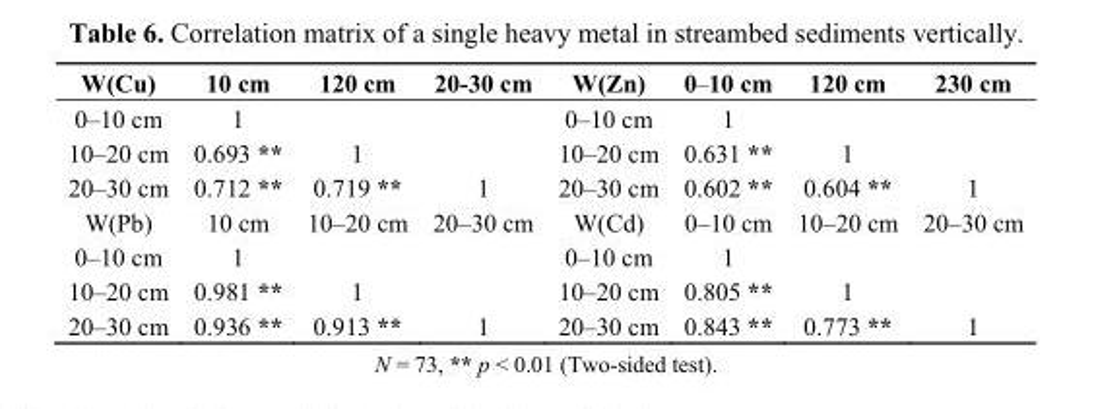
<table><thead><tr><td>W(Cu)</td><td>10 cm</td><td>120 cm</td><td>20-30 cm</td><td>W(Zn)</td><td>0–10 cm</td><td>120 cm</td><td>230 cm</td></tr></thead><tbody><tr><td>0–10 cm</td><td>1</td><td></td><td></td><td>0–10 cm</td><td>1</td><td></td><td></td></tr><tr><td>10–20 cm</td><td>0.693 **</td><td>1</td><td></td><td>10–20 cm</td><td>0.631 **</td><td>1</td><td></td></tr><tr><td>20–30 cm</td><td>0.712 **</td><td>0.719 **</td><td>1</td><td>20–30 cm</td><td>0.602 **</td><td>0.604 **</td><td>1</td></tr><tr><td>W(Pb)</td><td>10 cm</td><td>10–20 cm</td><td>20–30 cm</td><td>W(Cd)</td><td>0–10 cm</td><td>10–20 cm</td><td>20–30 cm</td></tr><tr><td>0–10 cm</td><td>1</td><td></td><td></td><td>0–10 cm</td><td>1</td><td></td><td></td></tr><tr><td>10–20 cm</td><td>0.981 **</td><td>1</td><td></td><td>10–20 cm</td><td>0.805 **</td><td>1</td><td></td></tr><tr><td>20–30 cm</td><td>0.936 **</td><td>0.913 **</td><td>1</td><td>20–30 cm</td><td>0.843 **</td><td>0.773 **</td><td>1</td></tr></tbody></table>